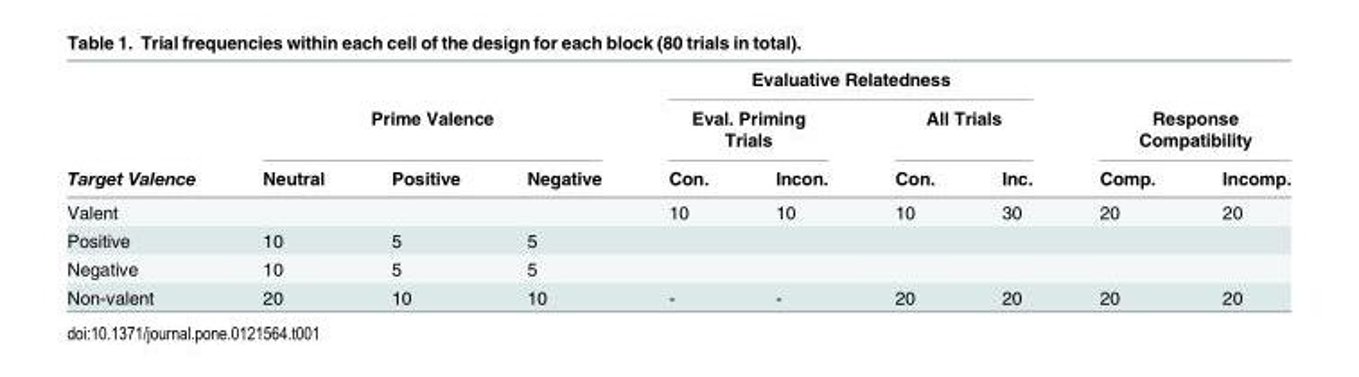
<table><thead><tr><td rowspan="3">Target Valence</td><td></td><td></td><td></td><td colspan="4">Evaluative Relatedness</td><td></td><td></td></tr><tr><td colspan="3">Prime Valence</td><td colspan="2">Eval. Priming Trials</td><td colspan="2">All Trials</td><td colspan="2">Response Compatibility</td></tr><tr><td>Neutral</td><td>Positive</td><td>Negative</td><td>Con.</td><td>Incon.</td><td>Con.</td><td>Inc.</td><td>Comp.</td><td>Incomp.</td></tr></thead><tbody><tr><td>Valent</td><td></td><td></td><td></td><td>10</td><td>10</td><td>10</td><td>30</td><td>20</td><td>20</td></tr><tr><td>Positive</td><td>10</td><td>5</td><td>5</td><td></td><td></td><td></td><td></td><td></td><td></td></tr><tr><td>Negative</td><td>10</td><td>5</td><td>5</td><td></td><td></td><td></td><td></td><td></td><td></td></tr><tr><td>Non-valent</td><td>20</td><td>10</td><td>10</td><td>-</td><td>-</td><td>20</td><td>20</td><td>20</td><td>20</td></tr></tbody></table>